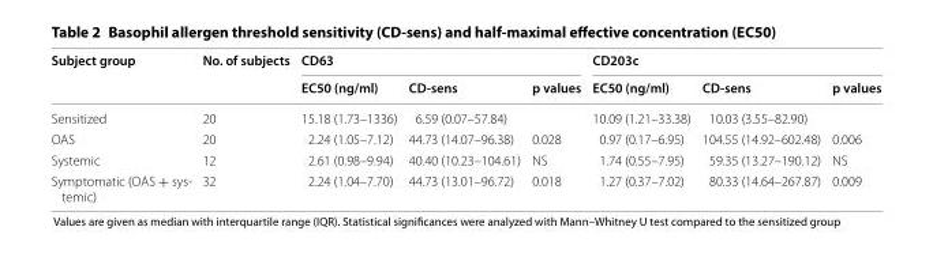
<table><thead><tr><td rowspan="2">Subject group</td><td rowspan="2">No. of subjects</td><td colspan="3">CD63</td><td colspan="3">CD203c</td></tr><tr><td>EC50 (ng/ml)</td><td>CD-sens</td><td>p values</td><td>EC50 (ng/ml)</td><td>CD-sens</td><td>p values</td></tr></thead><tbody><tr><td>Sensitized</td><td>20</td><td>15.18 (1.73–1336)</td><td>6.59 (0.07–57.84)</td><td></td><td>10.09 (1.21–33.38)</td><td>10.03 (3.55–82.90)</td><td></td></tr><tr><td>OAS</td><td>20</td><td>2.24 (1.05–7.12)</td><td>44.73 (14.07–96.38)</td><td>0.028</td><td>0.97 (0.17–6.95)</td><td>104.55 (14.92–602.48)</td><td>0.006</td></tr><tr><td>Systemic</td><td>12</td><td>2.61 (0.98–9.94)</td><td>40.40 (10.23–104.61)</td><td>NS</td><td>1.74 (0.55–7.95)</td><td>59.35 (13.27–190.12)</td><td>NS</td></tr><tr><td>Symptomatic (OAS + sys- temic)</td><td>32</td><td>2.24 (1.04–7.70)</td><td>44.73 (13.01–96.72)</td><td>0.018</td><td>1.27 (0.37–7.02)</td><td>80.33 (14.64–267.87)</td><td>0.009</td></tr></tbody></table>